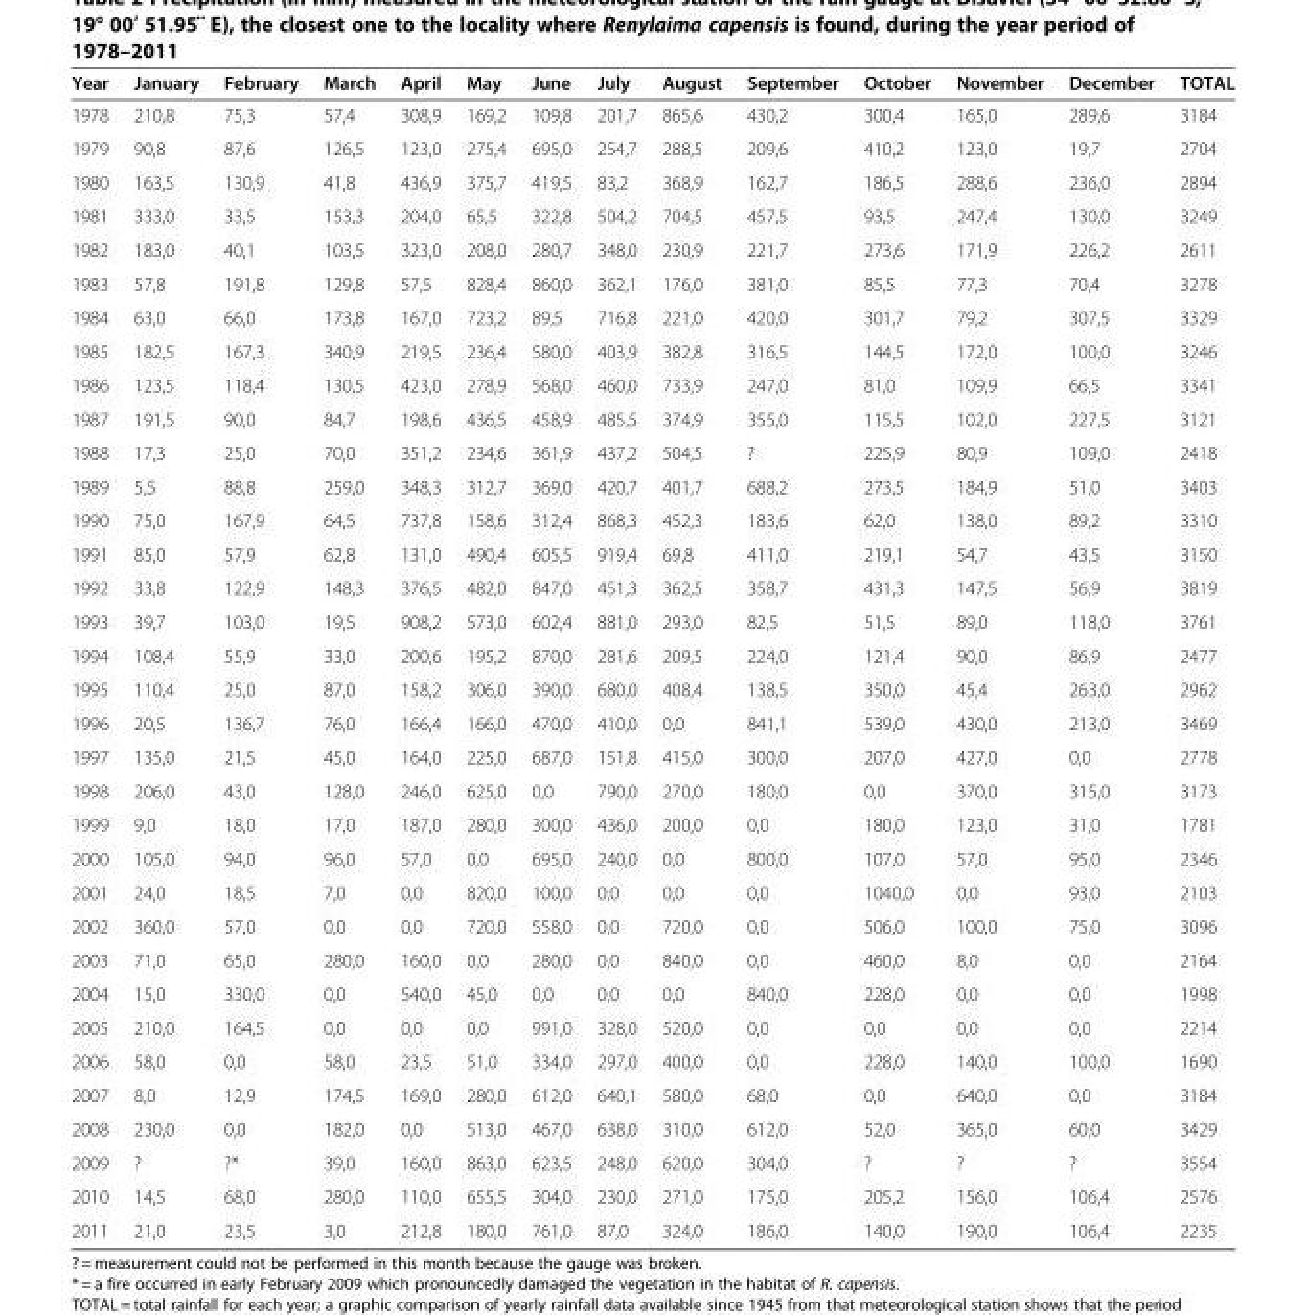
<table><thead><tr><td>Year</td><td>January</td><td>February</td><td>March</td><td>April</td><td>May</td><td>June</td><td>July</td><td>August</td><td>September</td><td>October</td><td>November</td><td>December</td><td>TOTAL</td></tr></thead><tbody><tr><td>1978</td><td>210,8</td><td>75,3</td><td>57,4</td><td>308,9</td><td>169,2</td><td>109,8</td><td>201,7</td><td>865,6</td><td>430,2</td><td>300,4</td><td>165,0</td><td>289,6</td><td>3184</td></tr><tr><td>1979</td><td>90,8</td><td>87,6</td><td>126,5</td><td>123,0</td><td>275,4</td><td>695,0</td><td>254,7</td><td>288,5</td><td>209,6</td><td>410,2</td><td>123,0</td><td>19,7</td><td>2704</td></tr><tr><td>1980</td><td>163,5</td><td>130,9</td><td>41,8</td><td>436,9</td><td>375,7</td><td>419,5</td><td>83,2</td><td>368,9</td><td>162,7</td><td>186,5</td><td>288,6</td><td>236,0</td><td>2894</td></tr><tr><td>1981</td><td>333,0</td><td>33,5</td><td>153,3</td><td>204,0</td><td>65,5</td><td>322,8</td><td>504,2</td><td>704,5</td><td>457,5</td><td>93,5</td><td>247,4</td><td>130,0</td><td>3249</td></tr><tr><td>1982</td><td>183,0</td><td>40,1</td><td>103,5</td><td>323,0</td><td>208,0</td><td>280,7</td><td>348,0</td><td>230,9</td><td>221,7</td><td>273,6</td><td>171,9</td><td>226,2</td><td>2611</td></tr><tr><td>1983</td><td>57,8</td><td>191,8</td><td>129,8</td><td>57,5</td><td>828,4</td><td>860,0</td><td>362,1</td><td>176,0</td><td>381,0</td><td>85,5</td><td>77,3</td><td>70,4</td><td>3278</td></tr><tr><td>1984</td><td>63,0</td><td>66,0</td><td>173,8</td><td>167,0</td><td>723,2</td><td>89,5</td><td>716,8</td><td>221,0</td><td>420,0</td><td>301,7</td><td>79,2</td><td>307,5</td><td>3329</td></tr><tr><td>1985</td><td>182,5</td><td>167,3</td><td>340,9</td><td>219,5</td><td>236,4</td><td>580,0</td><td>403,9</td><td>382,8</td><td>316,5</td><td>144,5</td><td>172,0</td><td>100,0</td><td>3246</td></tr><tr><td>1986</td><td>123,5</td><td>118,4</td><td>130,5</td><td>423,0</td><td>278,9</td><td>568,0</td><td>460,0</td><td>733,9</td><td>247,0</td><td>81,0</td><td>109,9</td><td>66,5</td><td>3341</td></tr><tr><td>1987</td><td>191,5</td><td>90,0</td><td>84,7</td><td>198,6</td><td>436,5</td><td>458,9</td><td>485,5</td><td>374,9</td><td>355,0</td><td>115,5</td><td>102,0</td><td>227,5</td><td>3121</td></tr><tr><td>1988</td><td>17,3</td><td>25,0</td><td>70,0</td><td>351,2</td><td>234,6</td><td>361,9</td><td>437,2</td><td>504,5</td><td>?</td><td>225,9</td><td>80,9</td><td>109,0</td><td>2418</td></tr><tr><td>1989</td><td>5,5</td><td>88,8</td><td>259,0</td><td>348,3</td><td>312,7</td><td>369,0</td><td>420,7</td><td>401,7</td><td>688,2</td><td>273,5</td><td>184,9</td><td>51,0</td><td>3403</td></tr><tr><td>1990</td><td>75,0</td><td>167,9</td><td>64,5</td><td>737,8</td><td>158,6</td><td>312,4</td><td>868,3</td><td>452,3</td><td>183,6</td><td>62,0</td><td>138,0</td><td>89,2</td><td>3310</td></tr><tr><td>1991</td><td>85,0</td><td>57,9</td><td>62,8</td><td>131,0</td><td>490,4</td><td>605,5</td><td>919,4</td><td>69,8</td><td>411,0</td><td>219,1</td><td>54,7</td><td>43,5</td><td>3150</td></tr><tr><td>1992</td><td>33,8</td><td>122,9</td><td>148,3</td><td>376,5</td><td>482,0</td><td>847,0</td><td>451,3</td><td>362,5</td><td>358,7</td><td>431,3</td><td>147,5</td><td>56,9</td><td>3819</td></tr><tr><td>1993</td><td>39,7</td><td>103,0</td><td>19,5</td><td>908,2</td><td>573,0</td><td>602,4</td><td>881,0</td><td>293,0</td><td>82,5</td><td>51,5</td><td>89,0</td><td>118,0</td><td>3761</td></tr><tr><td>1994</td><td>108,4</td><td>55,9</td><td>33,0</td><td>200,6</td><td>195,2</td><td>870,0</td><td>281,6</td><td>209,5</td><td>224,0</td><td>121,4</td><td>90,0</td><td>86,9</td><td>2477</td></tr><tr><td>1995</td><td>110,4</td><td>25,0</td><td>87,0</td><td>158,2</td><td>306,0</td><td>390,0</td><td>680,0</td><td>408,4</td><td>138,5</td><td>350,0</td><td>45,4</td><td>263,0</td><td>2962</td></tr><tr><td>1996</td><td>20,5</td><td>136,7</td><td>76,0</td><td>166,4</td><td>166,0</td><td>470,0</td><td>410,0</td><td>0,0</td><td>841,1</td><td>539,0</td><td>430,0</td><td>213,0</td><td>3469</td></tr><tr><td>1997</td><td>135,0</td><td>21,5</td><td>45,0</td><td>164,0</td><td>225,0</td><td>687,0</td><td>151,8</td><td>415,0</td><td>300,0</td><td>207,0</td><td>427,0</td><td>0,0</td><td>2778</td></tr><tr><td>1998</td><td>206,0</td><td>43,0</td><td>128,0</td><td>246,0</td><td>625,0</td><td>0,0</td><td>790,0</td><td>270,0</td><td>180,0</td><td>0,0</td><td>370,0</td><td>315,0</td><td>3173</td></tr><tr><td>1999</td><td>9,0</td><td>18,0</td><td>17,0</td><td>187,0</td><td>280,0</td><td>300,0</td><td>436,0</td><td>200,0</td><td>0,0</td><td>180,0</td><td>123,0</td><td>31,0</td><td>1781</td></tr><tr><td>2000</td><td>105,0</td><td>94,0</td><td>96,0</td><td>57,0</td><td>0,0</td><td>695,0</td><td>240,0</td><td>0,0</td><td>800,0</td><td>107,0</td><td>57,0</td><td>95,0</td><td>2346</td></tr><tr><td>2001</td><td>24,0</td><td>18,5</td><td>7,0</td><td>0,0</td><td>820,0</td><td>100,0</td><td>0,0</td><td>0,0</td><td>0,0</td><td>1040,0</td><td>0,0</td><td>93,0</td><td>2103</td></tr><tr><td>2002</td><td>360,0</td><td>57,0</td><td>0,0</td><td>0,0</td><td>720,0</td><td>558,0</td><td>0,0</td><td>720,0</td><td>0,0</td><td>506,0</td><td>100,0</td><td>75,0</td><td>3096</td></tr><tr><td>2003</td><td>71,0</td><td>65,0</td><td>280,0</td><td>160,0</td><td>0,0</td><td>280,0</td><td>0,0</td><td>840,0</td><td>0,0</td><td>460,0</td><td>8,0</td><td>0,0</td><td>2164</td></tr><tr><td>2004</td><td>15,0</td><td>330,0</td><td>0,0</td><td>540,0</td><td>45,0</td><td>0,0</td><td>0,0</td><td>0,0</td><td>840,0</td><td>228,0</td><td>0,0</td><td>0,0</td><td>1998</td></tr><tr><td>2005</td><td>210,0</td><td>164,5</td><td>0,0</td><td>0,0</td><td>0,0</td><td>991,0</td><td>328,0</td><td>520,0</td><td>0,0</td><td>0,0</td><td>0,0</td><td>0,0</td><td>2214</td></tr><tr><td>2006</td><td>58,0</td><td>0,0</td><td>58,0</td><td>23,5</td><td>51,0</td><td>334,0</td><td>297,0</td><td>400,0</td><td>0,0</td><td>228,0</td><td>140,0</td><td>100,0</td><td>1690</td></tr><tr><td>2007</td><td>8,0</td><td>12,9</td><td>174,5</td><td>169,0</td><td>280,0</td><td>612,0</td><td>640,1</td><td>580,0</td><td>68,0</td><td>0,0</td><td>640,0</td><td>0,0</td><td>3184</td></tr><tr><td>2008</td><td>230,0</td><td>0,0</td><td>182,0</td><td>0,0</td><td>513,0</td><td>467,0</td><td>638,0</td><td>310,0</td><td>612,0</td><td>52,0</td><td>365,0</td><td>60,0</td><td>3429</td></tr><tr><td>2009</td><td>?</td><td>?*</td><td>39,0</td><td>160,0</td><td>863,0</td><td>623,5</td><td>248,0</td><td>620,0</td><td>304,0</td><td>?</td><td>?</td><td>?</td><td>3554</td></tr><tr><td>2010</td><td>14,5</td><td>68,0</td><td>280,0</td><td>110,0</td><td>655,5</td><td>304,0</td><td>230,0</td><td>271,0</td><td>175,0</td><td>205,2</td><td>156,0</td><td>106,4</td><td>2576</td></tr><tr><td>2011</td><td>21,0</td><td>23,5</td><td>3,0</td><td>212,8</td><td>180,0</td><td>761,0</td><td>87,0</td><td>324,0</td><td>186,0</td><td>140,0</td><td>190,0</td><td>106,4</td><td>2235</td></tr></tbody></table>